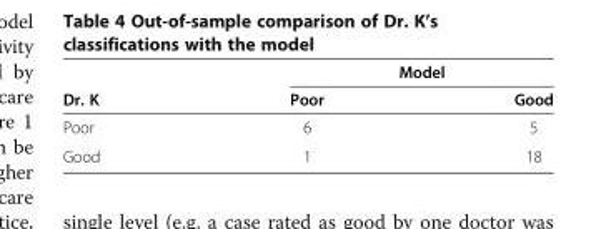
<table><thead><tr><td rowspan="2">Dr. K</td><td colspan="2">Model</td></tr><tr><td>Poor</td><td>Good</td></tr></thead><tbody><tr><td>Poor</td><td>6</td><td>5</td></tr><tr><td>Good</td><td>1</td><td>18</td></tr></tbody></table>